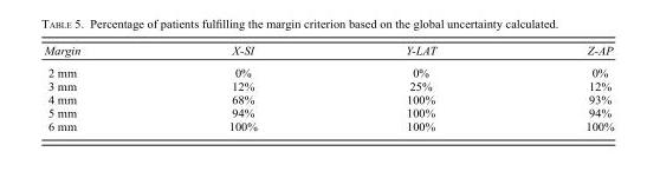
<table><thead><tr><td>Margin</td><td>X-SI</td><td>Y-LAT</td><td>Z-AP</td></tr></thead><tbody><tr><td>2 mm</td><td>0%</td><td>0%</td><td>0%</td></tr><tr><td>3 mm</td><td>12%</td><td>25%</td><td>12%</td></tr><tr><td>4 mm</td><td>68%</td><td>100%</td><td>93%</td></tr><tr><td>5 mm</td><td>94%</td><td>100%</td><td>94%</td></tr><tr><td>6 mm</td><td>100%</td><td>100%</td><td>100%</td></tr></tbody></table>